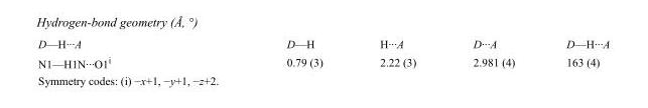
<table><tbody><tr><td>D—H···A</td><td>D—H</td><td>H···A</td><td>D···A</td><td>D—H···A</td></tr><tr><td>N1—H1N···O1<sup>i</sup></td><td>0.79 (3)</td><td>2.22 (3)</td><td>2.981 (4)</td><td>163 (4)</td></tr></tbody></table>